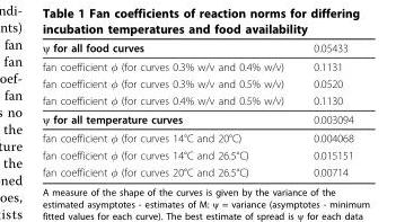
<table><thead><tr><td>ψ for all food curves</td><td>0.05433</td></tr></thead><tbody><tr><td>fan coefficient φ (for curves 0.3% w/v and 0.4% w/v)</td><td>0.1131</td></tr><tr><td>fan coefficient φ (for curves 0.3% w/v and 0.5% w/v)</td><td>0.0520</td></tr><tr><td>fan coefficient φ (for curves 0.4% w/v and 0.5% w/v)</td><td>0.1130</td></tr><tr><td>ψ for all temperature curves</td><td>0.003094</td></tr><tr><td>fan coefficient φ (for curves 14°C and 20°C)</td><td>0.004068</td></tr><tr><td>fan coefficient φ (for curves 14°C and 26.5°C)</td><td>0.015151</td></tr><tr><td>fan coefficient φ (for curves 20°C and 26.5°C)</td><td>0.00714</td></tr></tbody></table>